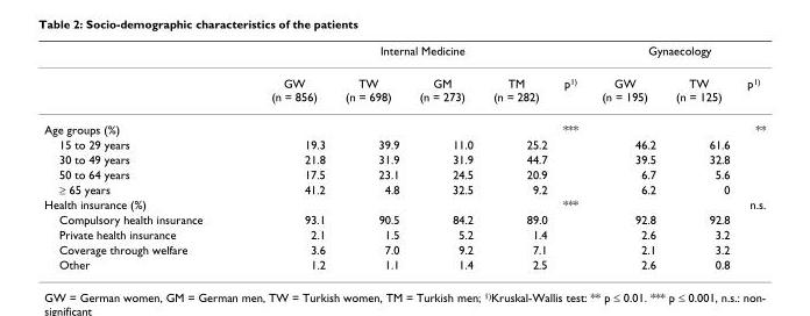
<table><thead><tr><td rowspan="2"></td><td colspan="5">Internal Medicine</td><td colspan="3">Gynaecology</td></tr><tr><td>GW (n = 856)</td><td>TW (n = 698)</td><td>GM (n = 273)</td><td>TM (n = 282)</td><td>p<sup>1)</sup></td><td>GW (n = 195)</td><td>TW (n = 125)</td><td>p<sup>1)</sup></td></tr></thead><tbody><tr><td>Age groups (%)</td><td></td><td></td><td></td><td></td><td>***</td><td></td><td></td><td>**</td></tr><tr><td>15 to 29 years</td><td>19.3</td><td>39.9</td><td>11.0</td><td>25.2</td><td></td><td>46.2</td><td>61.6</td><td></td></tr><tr><td>30 to 49 years</td><td>21.8</td><td>31.9</td><td>31.9</td><td>44.7</td><td></td><td>39.5</td><td>32.8</td><td></td></tr><tr><td>50 to 64 years</td><td>17.5</td><td>23.1</td><td>24.5</td><td>20.9</td><td></td><td>6.7</td><td>5.6</td><td></td></tr><tr><td>≥ 65 years</td><td>41.2</td><td>4.8</td><td>32.5</td><td>9.2</td><td></td><td>6.2</td><td>0</td><td></td></tr><tr><td>Health insurance (%)</td><td></td><td></td><td></td><td></td><td>***</td><td></td><td></td><td>n.s.</td></tr><tr><td>Compulsory health insurance</td><td>93.1</td><td>90.5</td><td>84.2</td><td>89.0</td><td></td><td>92.8</td><td>92.8</td><td></td></tr><tr><td>Private health insurance</td><td>2.1</td><td>1.5</td><td>5.2</td><td>1.4</td><td></td><td>2.6</td><td>3.2</td><td></td></tr><tr><td>Coverage through welfare</td><td>3.6</td><td>7.0</td><td>9.2</td><td>7.1</td><td></td><td>2.1</td><td>3.2</td><td></td></tr><tr><td>Other</td><td>1.2</td><td>1.1</td><td>1.4</td><td>2.5</td><td></td><td>2.6</td><td>0.8</td><td></td></tr></tbody></table>